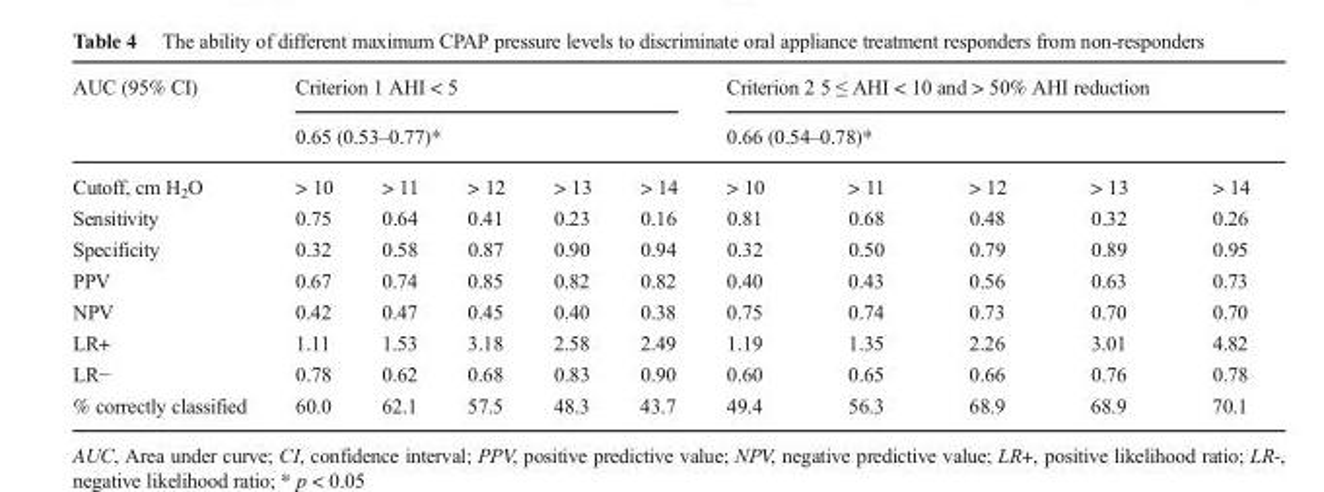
<table><thead><tr><td rowspan="3">AUC (95% CI) Cutoff, cm H<sub>2</sub>O</td><td rowspan="2" colspan="5">Criterion 1 AHI &lt; 5 0.65 (0.53–0.77)*</td><td rowspan="2" colspan="5">Criterion 2 5 ≤ AHI &lt; 10 and &gt; 50% AHI reduction 0.66 (0.54–0.78)*</td></tr><tr></tr><tr><td>&gt; 10</td><td>&gt; 11</td><td>&gt; 12</td><td>&gt; 13</td><td>&gt; 14</td><td>&gt; 10</td><td>&gt; 11</td><td>&gt; 12</td><td>&gt; 13</td><td>&gt; 14</td></tr></thead><tbody><tr><td>Sensitivity</td><td>0.75</td><td>0.64</td><td>0.41</td><td>0.23</td><td>0.16</td><td>0.81</td><td>0.68</td><td>0.48</td><td>0.32</td><td>0.26</td></tr><tr><td>Specificity</td><td>0.32</td><td>0.58</td><td>0.87</td><td>0.90</td><td>0.94</td><td>0.32</td><td>0.50</td><td>0.79</td><td>0.89</td><td>0.95</td></tr><tr><td>PPV</td><td>0.67</td><td>0.74</td><td>0.85</td><td>0.82</td><td>0.82</td><td>0.40</td><td>0.43</td><td>0.56</td><td>0.63</td><td>0.73</td></tr><tr><td>NPV</td><td>0.42</td><td>0.47</td><td>0.45</td><td>0.40</td><td>0.38</td><td>0.75</td><td>0.74</td><td>0.73</td><td>0.70</td><td>0.70</td></tr><tr><td>LR+</td><td>1.11</td><td>1.53</td><td>3.18</td><td>2.58</td><td>2.49</td><td>1.19</td><td>1.35</td><td>2.26</td><td>3.01</td><td>4.82</td></tr><tr><td>LR−</td><td>0.78</td><td>0.62</td><td>0.68</td><td>0.83</td><td>0.90</td><td>0.60</td><td>0.65</td><td>0.66</td><td>0.76</td><td>0.78</td></tr><tr><td>% correctly classified</td><td>60.0</td><td>62.1</td><td>57.5</td><td>48.3</td><td>43.7</td><td>49.4</td><td>56.3</td><td>68.9</td><td>68.9</td><td>70.1</td></tr></tbody></table>